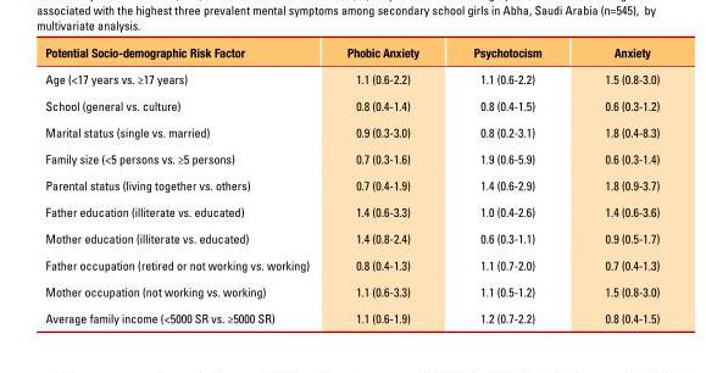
<table><thead><tr><td>Potential Socio-demographic Risk Factor</td><td>Phobic Anxiety</td><td>Psychotocism</td><td>Anxiety</td></tr></thead><tbody><tr><td>Age (&lt;17 years vs. ≥17 years)</td><td>1.1 (0.6-2.2)</td><td>1.1 (0.6-2.2)</td><td>1.5 (0.8-3.0)</td></tr><tr><td>School (general vs. culture)</td><td>0.8 (0.4-1.4)</td><td>0.8 (0.4-1.5)</td><td>0.6 (0.3-1.2)</td></tr><tr><td>Marital status (single vs. married)</td><td>0.9 (0.3-3.0)</td><td>0.8 (0.2-3.1)</td><td>1.8 (0.4-8.3)</td></tr><tr><td>Family size (&lt;5 persons vs. ≥5 persons)</td><td>0.7 (0.3-1.6)</td><td>1.9 (0.6-5.9)</td><td>0.6 (0.3-1.4)</td></tr><tr><td>parental status (living together vs. others)</td><td>0.7 (0.4-1.9)</td><td>1.4 (0.6-2.9)</td><td>1.8 (0.9-3.7)</td></tr><tr><td>Father education (illiterate vs. educated)</td><td>1.4 (0.6-3.3)</td><td>1.0 (0.4-2.6)</td><td>1.4 (0.6-3.6)</td></tr><tr><td>Mother education (illiterate vs. educated)</td><td>1.4 (0.8-2.4)</td><td>0.6 (0.3-1.1)</td><td>0.9 (0.5-1.7)</td></tr><tr><td>Father occupation (retired or not working vs. working)</td><td>0.8 (0.4-1.3)</td><td>1.1 (0.7-2.0)</td><td>0.7 (0.4-1.3)</td></tr><tr><td>Mother occupation (not working vs. working)</td><td>1.1 (0.6-3.3)</td><td>1.1 (0.5-1.2)</td><td>1.5 (0.8-3.0)</td></tr><tr><td>Average family income (&lt;5000 Sr vs. ≥5000 Sr)</td><td>1.1 (0.6-1.9)</td><td>1.2 (0.7-2.2)</td><td>0.8 (0.4-1.5)</td></tr></tbody></table>